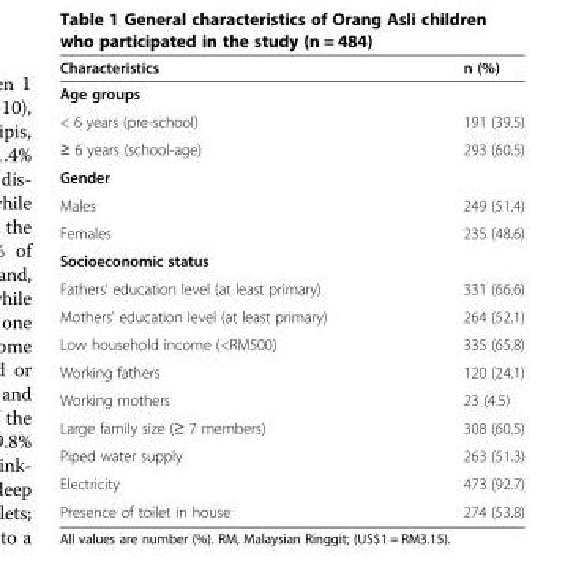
<table><thead><tr><td>Characteristics</td><td>n (%)</td></tr></thead><tbody><tr><td colspan="2">Age groups</td></tr><tr><td>&lt; 6 years (pre-school)</td><td>191 (39.5)</td></tr><tr><td>≥ 6 years (school-age)</td><td>293 (60.5)</td></tr><tr><td colspan="2">Gender</td></tr><tr><td>Males</td><td>249 (51.4)</td></tr><tr><td>Females</td><td>235 (48.6)</td></tr><tr><td colspan="2">Socioeconomic status</td></tr><tr><td>Fathers’ education level (at least primary)</td><td>331 (66.6)</td></tr><tr><td>Mothers’ education level (at least primary)</td><td>264 (52.1)</td></tr><tr><td>Low household income (&lt;RM500)</td><td>335 (65.8)</td></tr><tr><td>Working fathers</td><td>120 (24.1)</td></tr><tr><td>Working mothers</td><td>23 (4.5)</td></tr><tr><td>Large family size (≥ 7 members)</td><td>308 (60.5)</td></tr><tr><td>Piped water supply</td><td>263 (51.3)</td></tr><tr><td>Electricity</td><td>473 (92.7)</td></tr><tr><td>Presence of toilet in house</td><td>274 (53.8)</td></tr></tbody></table>